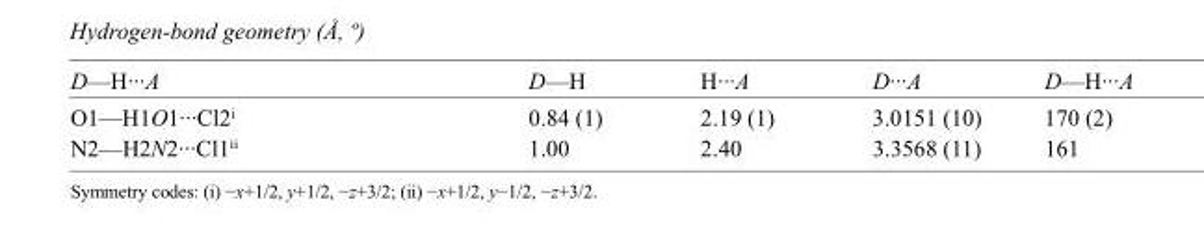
<table><tbody><tr><td>D—H···A</td><td>D—H</td><td>H···A</td><td>D···A</td><td>D—H···A</td></tr><tr><td>O1—H1O1···Cl2<sup>i</sup></td><td>0.84 (1)</td><td>2.19 (1)</td><td>3.0151 (10)</td><td>170 (2)</td></tr><tr><td>N2—H2N2···Cl1<sup>ii</sup></td><td>1.00</td><td>2.40</td><td>3.3568 (11)</td><td>161</td></tr></tbody></table>